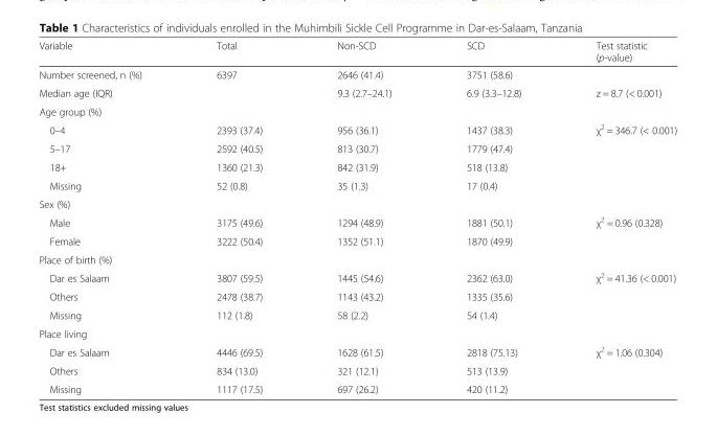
<table><thead><tr><td>Variable</td><td>Total</td><td>Non-SCD</td><td>SCD</td><td>Test statistic (p-value)</td></tr></thead><tbody><tr><td>Number screened, n (%)</td><td>6397</td><td>2646 (41.4)</td><td>3751 (58.6)</td><td></td></tr><tr><td>Median age (IQR)</td><td></td><td>9.3 (2.7–24.1)</td><td>6.9 (3.3–12.8)</td><td>z = 8.7 (&lt; 0.001)</td></tr><tr><td colspan="5">Age group (%)</td></tr><tr><td>0–4</td><td>2393 (37.4)</td><td>956 (36.1)</td><td>1437 (38.3)</td><td rowspan="4">χ<sup>2</sup> = 346.7 (&lt; 0.001)</td></tr><tr><td>5–17</td><td>2592 (40.5)</td><td>813 (30.7)</td><td>1779 (47.4)</td></tr><tr><td>18+</td><td>1360 (21.3)</td><td>842 (31.9)</td><td>518 (13.8)</td></tr><tr><td>Missing</td><td>52 (0.8)</td><td>35 (1.3)</td><td>17 (0.4)</td></tr><tr><td colspan="5">Sex (%)</td></tr><tr><td>Male</td><td>3175 (49.6)</td><td>1294 (48.9)</td><td>1881 (50.1)</td><td rowspan="2">χ<sup>2</sup> = 0.96 (0.328)</td></tr><tr><td>Female</td><td>3222 (50.4)</td><td>1352 (51.1)</td><td>1870 (49.9)</td></tr><tr><td colspan="5">Place of birth (%)</td></tr><tr><td>Dar es Salaam</td><td>3807 (59.5)</td><td>1445 (54.6)</td><td>2362 (63.0)</td><td rowspan="3">χ<sup>2</sup> = 41.36 (&lt; 0.001)</td></tr><tr><td>Others</td><td>2478 (38.7)</td><td>1143 (43.2)</td><td>1335 (35.6)</td></tr><tr><td>Missing</td><td>112 (1.8)</td><td>58 (2.2)</td><td>54 (1.4)</td></tr><tr><td colspan="5">Place living</td></tr><tr><td>Dar es Salaam</td><td>4446 (69.5)</td><td>1628 (61.5)</td><td>2818 (75.13)</td><td rowspan="3">χ<sup>2</sup> = 1.06 (0.304)</td></tr><tr><td>Others</td><td>834 (13.0)</td><td>321 (12.1)</td><td>513 (13.9)</td></tr><tr><td>Missing</td><td>1117 (17.5)</td><td>697 (26.2)</td><td>420 (11.2)</td></tr></tbody></table>